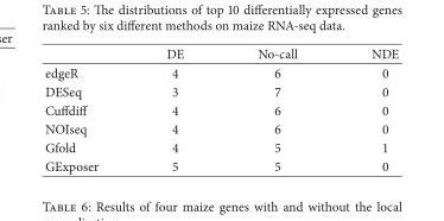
<table><thead><tr><td></td><td>DE</td><td>No-call</td><td>NDE</td></tr></thead><tbody><tr><td>edgeR</td><td>4</td><td>6</td><td>0</td></tr><tr><td>DESeq</td><td>3</td><td>7</td><td>0</td></tr><tr><td>Cuffdiff</td><td>4</td><td>6</td><td>0</td></tr><tr><td>NOIseq</td><td>4</td><td>6</td><td>0</td></tr><tr><td>Gfold</td><td>4</td><td>5</td><td>1</td></tr><tr><td>GExposer</td><td>5</td><td>5</td><td>0</td></tr></tbody></table>